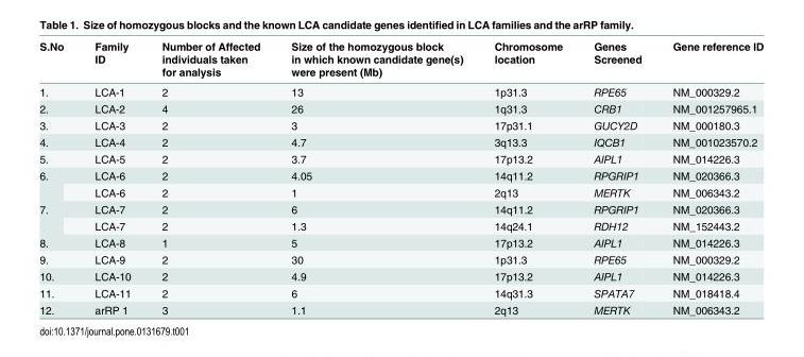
<table><thead><tr><td>S.No</td><td>Family ID</td><td>Number of Affected individuals taken for analysis</td><td>Size of the homozygous block in which known candidate gene(s) were present (Mb)</td><td>Chromosome location</td><td>Genes Screened</td><td>Gene reference ID</td></tr></thead><tbody><tr><td>1.</td><td>LCA-1</td><td>2</td><td>13</td><td>1p31.3</td><td>RPE65</td><td>NM_000329.2</td></tr><tr><td>2.</td><td>LCA-2</td><td>4</td><td>26</td><td>1q31.3</td><td>CRB1</td><td>NM_001257965.1</td></tr><tr><td>3.</td><td>LCA-3</td><td>2</td><td>3</td><td>17p31.1</td><td>GUCY2D</td><td>NM_000180.3</td></tr><tr><td>4.</td><td>LCA-4</td><td>2</td><td>4.7</td><td>3q13.3</td><td>IQCB1</td><td>NM_001023570.2</td></tr><tr><td>5.</td><td>LCA-5</td><td>2</td><td>3.7</td><td>17p13.2</td><td>AIPL1</td><td>NM_014226.3</td></tr><tr><td rowspan="2">6.</td><td>LCA-6</td><td>2</td><td>4.05</td><td>14q11.2</td><td>RPGRIP1</td><td>NM_020366.3</td></tr><tr><td>LCA-6</td><td>2</td><td>1</td><td>2q13</td><td>MERTK</td><td>NM_006343.2</td></tr><tr><td rowspan="2">7.</td><td>LCA-7</td><td>2</td><td>6</td><td>14q11.2</td><td>RPGRIP1</td><td>NM_020366.3</td></tr><tr><td>LCA-7</td><td>2</td><td>1.3</td><td>14q24.1</td><td>RDH12</td><td>NM_152443.2</td></tr><tr><td>8.</td><td>LCA-8</td><td>1</td><td>5</td><td>17p13.2</td><td>AIPL1</td><td>NM_014226.3</td></tr><tr><td>9.</td><td>LCA-9</td><td>2</td><td>30</td><td>1p31.3</td><td>RPE65</td><td>NM_000329.2</td></tr><tr><td>10.</td><td>LCA-10</td><td>2</td><td>4.9</td><td>17p13.2</td><td>AIPL1</td><td>NM_014226.3</td></tr><tr><td>11.</td><td>LCA-11</td><td>2</td><td>6</td><td>14q31.3</td><td>SPATA7</td><td>NM_018418.4</td></tr><tr><td>12.</td><td>arRP 1</td><td>3</td><td>1.1</td><td>2q13</td><td>MERTK</td><td>NM_006343.2</td></tr></tbody></table>